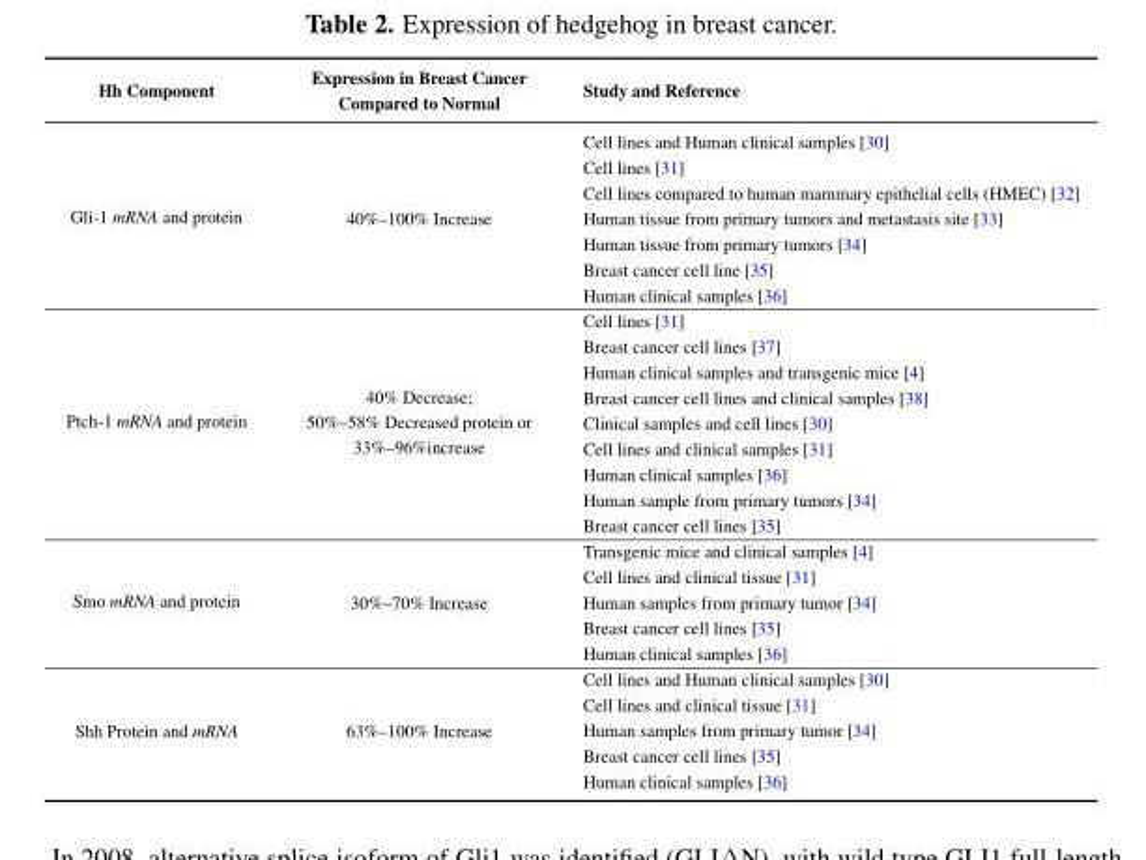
<table><thead><tr><td>Hh Component</td><td>Expression in Breast Cancer Compared to Normal</td><td>Study and Reference</td></tr></thead><tbody><tr><td rowspan="7">Gli-1 mRNA and protein</td><td rowspan="7">40%–100% Increase</td><td>Cell lines and Human clinical samples [30]</td></tr><tr><td>Cell lines [31]</td></tr><tr><td>Cell lines compared to human mammary epithelial cells (HMEC) [32]</td></tr><tr><td>Human tissue from primary tumors and metastasis site [33]</td></tr><tr><td>Human tissue from primary tumors [34]</td></tr><tr><td>Breast cancer cell line [35]</td></tr><tr><td>Human clinical samples [36]</td></tr><tr><td rowspan="9">Ptch-1 mRNA and protein</td><td rowspan="9">40% Decrease; 50%–58% Decreased protein or 33%–96%increase</td><td>Cell lines [31]</td></tr><tr><td>Breast cancer cell lines [37]</td></tr><tr><td>Human clinical samples and transgenic mice [4]</td></tr><tr><td>Breast cancer cell lines and clinical samples [38]</td></tr><tr><td>Clinical samples and cell lines [30]</td></tr><tr><td>Cell lines and clinical samples [31]</td></tr><tr><td>Human clinical samples [36]</td></tr><tr><td>Human sample from primary tumors [34]</td></tr><tr><td>Breast cancer cell lines [35]</td></tr><tr><td rowspan="5">Smo mRNA and protein</td><td rowspan="5">30%–70% Increase</td><td>Transgenic mice and clinical samples [4]</td></tr><tr><td>Cell lines and clinical tissue [31]</td></tr><tr><td>Human samples from primary tumor [34]</td></tr><tr><td>Breast cancer cell lines [35]</td></tr><tr><td>Human clinical samples [36]</td></tr><tr><td rowspan="5">Shh Protein and mRNA</td><td rowspan="5">63%–100% Increase</td><td>Cell lines and Human clinical samples [30]</td></tr><tr><td>Cell lines and clinical tissue [31]</td></tr><tr><td>Human samples from primary tumor [34]</td></tr><tr><td>Breast cancer cell lines [35]</td></tr><tr><td>Human clinical samples [36]</td></tr></tbody></table>